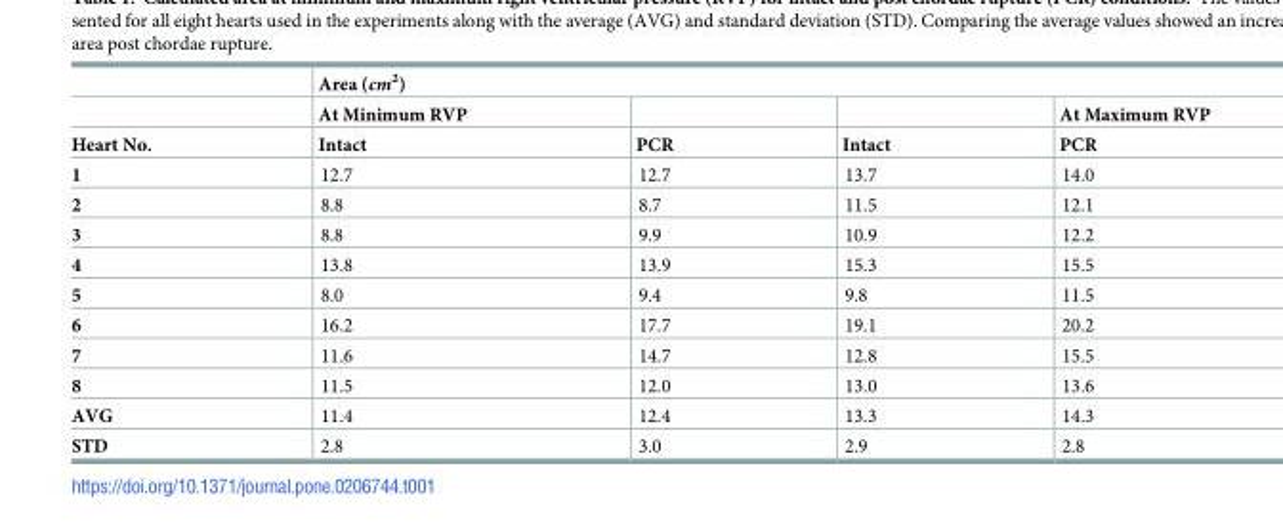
<table><thead><tr><td rowspan="3">Heart No.</td><td colspan="4">Area (cm<sup>2</sup>)</td></tr><tr><td rowspan="2">At Minimum RVP Intact</td><td rowspan="2">PCR</td><td rowspan="2">Intact</td><td rowspan="2">At Maximum RVP PCR</td></tr><tr></tr></thead><tbody><tr><td>1</td><td>12.7</td><td>12.7</td><td>13.7</td><td>14.0</td></tr><tr><td>2</td><td>8.8</td><td>8.7</td><td>11.5</td><td>12.1</td></tr><tr><td>3</td><td>8.8</td><td>9.9</td><td>10.9</td><td>12.2</td></tr><tr><td>4</td><td>13.8</td><td>13.9</td><td>15.3</td><td>15.5</td></tr><tr><td>5</td><td>8.0</td><td>9.4</td><td>9.8</td><td>11.5</td></tr><tr><td>6</td><td>16.2</td><td>17.7</td><td>19.1</td><td>20.2</td></tr><tr><td>7</td><td>11.6</td><td>14.7</td><td>12.8</td><td>15.5</td></tr><tr><td>8</td><td>11.5</td><td>12.0</td><td>13.0</td><td>13.6</td></tr><tr><td>AVG</td><td>11.4</td><td>12.4</td><td>13.3</td><td>14.3</td></tr><tr><td>STD</td><td>2.8</td><td>3.0</td><td>2.9</td><td>2.8</td></tr></tbody></table>